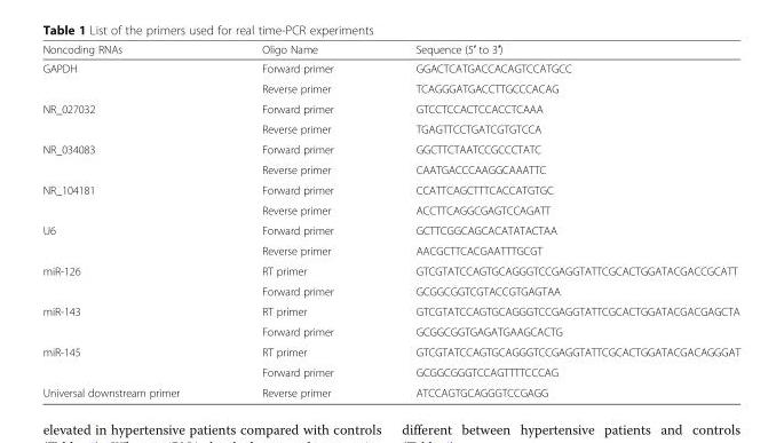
<table><thead><tr><td>Noncoding RNAs</td><td>Oligo Name</td><td>Sequence (5′ to 3′)</td></tr></thead><tbody><tr><td rowspan="2">GAPDH</td><td>Forward primer</td><td>GGACTCATGACCACAGTCCATGCC</td></tr><tr><td>Reverse primer</td><td>TCAGGGATGACCTTGCCCACAG</td></tr><tr><td rowspan="2">NR_027032</td><td>Forward primer</td><td>GTCCTCCACTCCACCTCAAA</td></tr><tr><td>Reverse primer</td><td>TGAGTTCCTGATCGTGTCCA</td></tr><tr><td rowspan="2">NR_034083</td><td>Forward primer</td><td>GGCTTCTAATCCGCCCTATC</td></tr><tr><td>Reverse primer</td><td>CAATGACCCAAGGCAAATTC</td></tr><tr><td rowspan="2">NR_104181</td><td>Forward primer</td><td>CCATTCAGCTTTCACCATGTGC</td></tr><tr><td>Reverse primer</td><td>ACCTTCAGGCGAGTCCAGATT</td></tr><tr><td rowspan="2">U6</td><td>Forward primer</td><td>GCTTCGGCAGCACATATACTAA</td></tr><tr><td>Reverse primer</td><td>AACGCTTCACGAATTTGCGT</td></tr><tr><td rowspan="2">miR-126</td><td>RT primer</td><td>GTCGTATCCAGTGCAGGGTCCGAGGTATTCGCACTGGATACGACCGCATT</td></tr><tr><td>Forward primer</td><td>GCGGCGGTCGTACCGTGAGTAA</td></tr><tr><td rowspan="2">miR-143</td><td>RT primer</td><td>GTCGTATCCAGTGCAGGGTCCGAGGTATTCGCACTGGATACGACGAGCTA</td></tr><tr><td>Forward primer</td><td>GCGGCGGTGAGATGAAGCACTG</td></tr><tr><td rowspan="2">miR-145</td><td>RT primer</td><td>GTCGTATCCAGTGCAGGGTCCGAGGTATTCGCACTGGATACGACAGGGAT</td></tr><tr><td>Forward primer</td><td>GCGGCGGGTCCAGTTTTCCCAG</td></tr><tr><td>Universal downstream primer</td><td>Reverse primer</td><td>ATCCAGTGCAGGGTCCGAGG</td></tr></tbody></table>